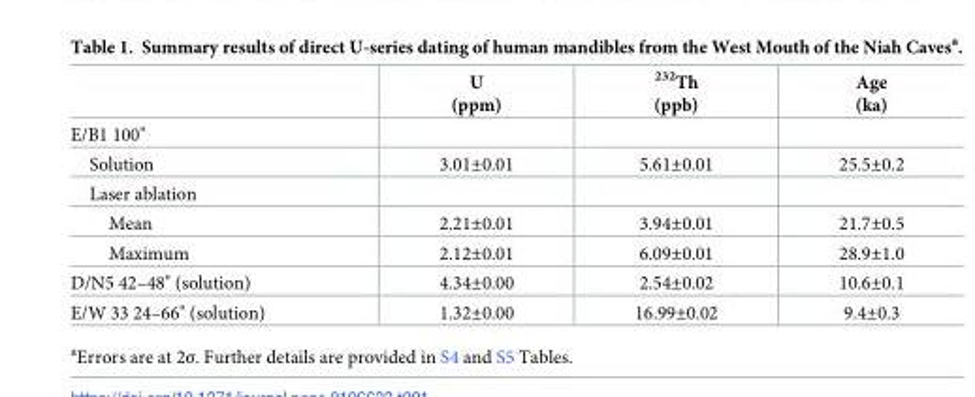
<table><thead><tr><td></td><td>U (ppm)</td><td><sup>232</sup>Th (ppb)</td><td>Age (ka)</td></tr></thead><tbody><tr><td colspan="4">E/B1 100&quot;</td></tr><tr><td>Solution</td><td>3.01±0.01</td><td>5.61±0.01</td><td>25.5±0.2</td></tr><tr><td colspan="4">Laser ablation</td></tr><tr><td>Mean</td><td>2.21±0.01</td><td>3.94±0.01</td><td>21.7±0.5</td></tr><tr><td>Maximum</td><td>2.12±0.01</td><td>6.09±0.01</td><td>28.9±1.0</td></tr><tr><td>D/N5 42–48&quot; (solution)</td><td>4.34±0.00</td><td>2.54±0.02</td><td>10.6±0.1</td></tr><tr><td>E/W 33 24–66&quot; (solution)</td><td>1.32±0.00</td><td>16.99±0.02</td><td>9.4±0.3</td></tr></tbody></table>